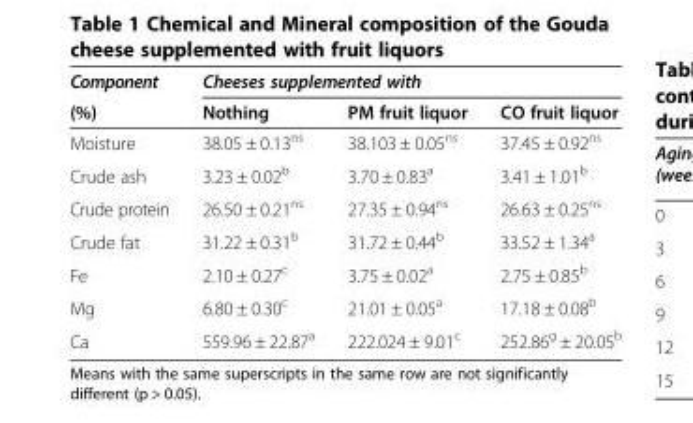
<table><thead><tr><td rowspan="2">Component (%)</td><td colspan="3">Cheeses supplemented with</td></tr><tr><td>Nothing</td><td>PM fruit liquor</td><td>CO fruit liquor</td></tr></thead><tbody><tr><td>Moisture</td><td>38.05 ± 0.13<sup>ns</sup></td><td>38.103 ± 0.05<sup>ns</sup></td><td>37.45 ± 0.92<sup>ns</sup></td></tr><tr><td>Crude ash</td><td>3.23 ± 0.02<sup>b</sup></td><td>3.70 ± 0.83<sup>a</sup></td><td>3.41 ± 1.01<sup>b</sup></td></tr><tr><td>Crude protein</td><td>26.50 ± 0.21<sup>ns</sup></td><td>27.35 ± 0.94<sup>ns</sup></td><td>26.63 ± 0.25<sup>ns</sup></td></tr><tr><td>Crude fat</td><td>31.22 ± 0.31<sup>b</sup></td><td>31.72 ± 0.44<sup>b</sup></td><td>33.52 ± 1.34<sup>a</sup></td></tr><tr><td>Fe</td><td>2.10 ± 0.27<sup>c</sup></td><td>3.75 ± 0.02<sup>a</sup></td><td>2.75 ± 0.85<sup>b</sup></td></tr><tr><td>Mg</td><td>6.80 ± 0.30<sup>c</sup></td><td>21.01 ± 0.05<sup>a</sup></td><td>17.18 ± 0.08<sup>b</sup></td></tr><tr><td>Ca</td><td>559.96 ± 22.87<sup>a</sup></td><td>222.024 ± 9.01<sup>c</sup></td><td>252.86<sup>g</sup> ± 20.05<sup>b</sup></td></tr></tbody></table>